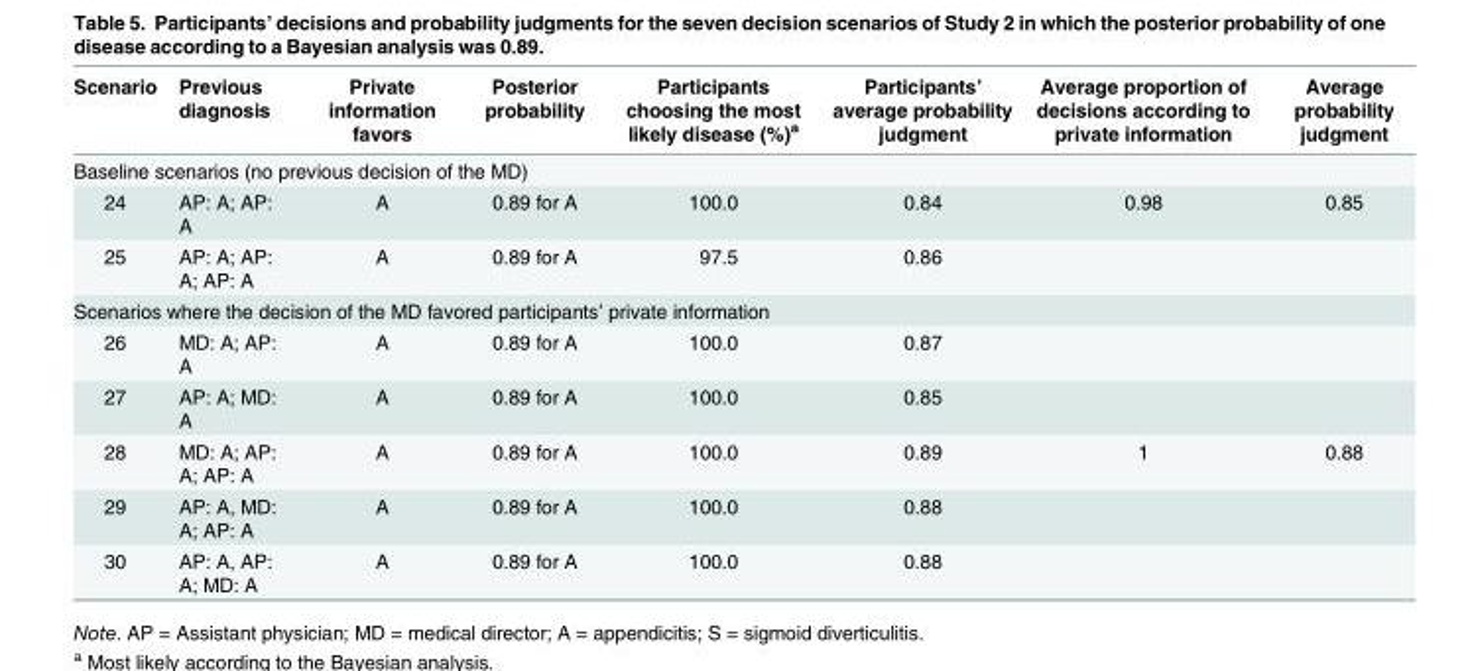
<table><thead><tr><td>Scenario</td><td>Previous diagnosis</td><td>Private information favors</td><td>Posterior probability</td><td>Participants choosing the most likely disease (%)<sup>a</sup></td><td>Participants’ average probability judgment</td><td>Average proportion of decisions according to private information</td><td>Average probability judgment</td></tr></thead><tbody><tr><td colspan="8">Baseline scenarios (no previous decision of the MD)</td></tr><tr><td>24</td><td>AP: A; AP: A</td><td>A</td><td>0.89 for A</td><td>100.0</td><td>0.84</td><td>0.98</td><td>0.85</td></tr><tr><td>25</td><td>AP: A; AP: A; AP: A</td><td>A</td><td>0.89 for A</td><td>97.5</td><td>0.86</td><td></td><td></td></tr><tr><td colspan="8">Scenarios where the decision of the MD favored participants’ private information</td></tr><tr><td>26</td><td>MD: A; AP: A</td><td>A</td><td>0.89 for A</td><td>100.0</td><td>0.87</td><td></td><td></td></tr><tr><td>27</td><td>AP: A; MD: A</td><td>A</td><td>0.89 for A</td><td>100.0</td><td>0.85</td><td></td><td></td></tr><tr><td>28</td><td>MD: A; AP: A; AP: A</td><td>A</td><td>0.89 for A</td><td>100.0</td><td>0.89</td><td>1</td><td>0.88</td></tr><tr><td>29</td><td>AP: A, MD: A; AP: A</td><td>A</td><td>0.89 for A</td><td>100.0</td><td>0.88</td><td></td><td></td></tr><tr><td>30</td><td>AP: A, AP: A; MD: A</td><td>A</td><td>0.89 for A</td><td>100.0</td><td>0.88</td><td></td><td></td></tr></tbody></table>